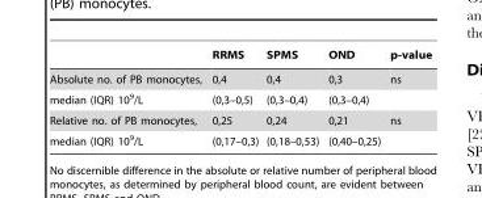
<table><thead><tr><td></td><td>RRMS</td><td>SPMS</td><td>OND</td><td>p-value</td></tr></thead><tbody><tr><td>Absolute no. of PB monocytes,</td><td>0,4</td><td>0,4</td><td>0,3</td><td>ns</td></tr><tr><td>median (IQR) 10<sup>9</sup>/L</td><td>(0,3–0,5)</td><td>(0,3–0,4)</td><td>(0,3–0,4)</td><td></td></tr><tr><td>Relative no. of PB monocytes,</td><td>0,25</td><td>0,24</td><td>0,21</td><td>ns</td></tr><tr><td>median (IQR) 10<sup>9</sup>/L</td><td>(0,17–0,3)</td><td>(0,18–0,53)</td><td>(0,40–0,25)</td><td></td></tr></tbody></table>